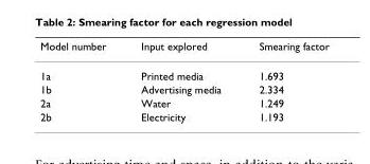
<table><thead><tr><td>Model number</td><td>Input explored</td><td>Smearing factor</td></tr></thead><tbody><tr><td>1a</td><td>Printed media</td><td>1.693</td></tr><tr><td>1b</td><td>Advertising media</td><td>2.334</td></tr><tr><td>2a</td><td>Water</td><td>1.249</td></tr><tr><td>2b</td><td>Electricity</td><td>1.193</td></tr></tbody></table>